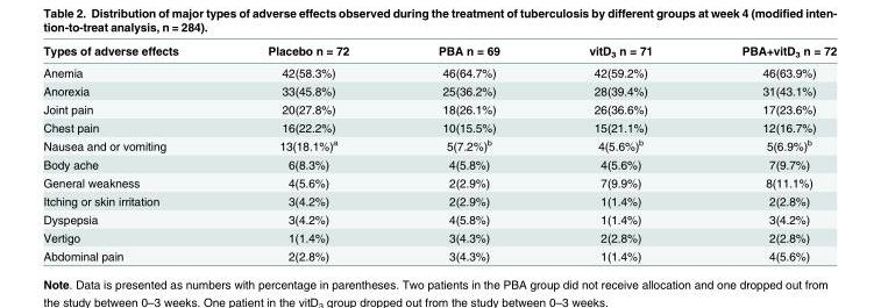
<table><thead><tr><td>Types of adverse effects</td><td>Placebo n = 72</td><td>PBA n = 69</td><td>vitD<sub>3</sub> n = 71</td><td>PBA+vitD<sub>3</sub> n = 72</td></tr></thead><tbody><tr><td>Anemia</td><td>42(58.3%)</td><td>46(64.7%)</td><td>42(59.2%)</td><td>46(63.9%)</td></tr><tr><td>Anorexia</td><td>33(45.8%)</td><td>25(36.2%)</td><td>28(39.4%)</td><td>31(43.1%)</td></tr><tr><td>Joint pain</td><td>20(27.8%)</td><td>18(26.1%)</td><td>26(36.6%)</td><td>17(23.6%)</td></tr><tr><td>Chest pain</td><td>16(22.2%)</td><td>10(15.5%)</td><td>15(21.1%)</td><td>12(16.7%)</td></tr><tr><td>Nausea and or vomiting</td><td>13(18.1%)<sup>a</sup></td><td>5(7.2%)<sup>b</sup></td><td>4(5.6%)<sup>b</sup></td><td>5(6.9%)<sup>b</sup></td></tr><tr><td>Body ache</td><td>6(8.3%)</td><td>4(5.8%)</td><td>4(5.6%)</td><td>7(9.7%)</td></tr><tr><td>General weakness</td><td>4(5.6%)</td><td>2(2.9%)</td><td>7(9.9%)</td><td>8(11.1%)</td></tr><tr><td>Itching or skin irritation</td><td>3(4.2%)</td><td>2(2.9%)</td><td>1(1.4%)</td><td>2(2.8%)</td></tr><tr><td>Dyspepsia</td><td>3(4.2%)</td><td>4(5.8%)</td><td>1(1.4%)</td><td>3(4.2%)</td></tr><tr><td>Vertigo</td><td>1(1.4%)</td><td>3(4.3%)</td><td>2(2.8%)</td><td>2(2.8%)</td></tr><tr><td>Abdominal pain</td><td>2(2.8%)</td><td>3(4.3%)</td><td>1(1.4%)</td><td>4(5.6%)</td></tr></tbody></table>